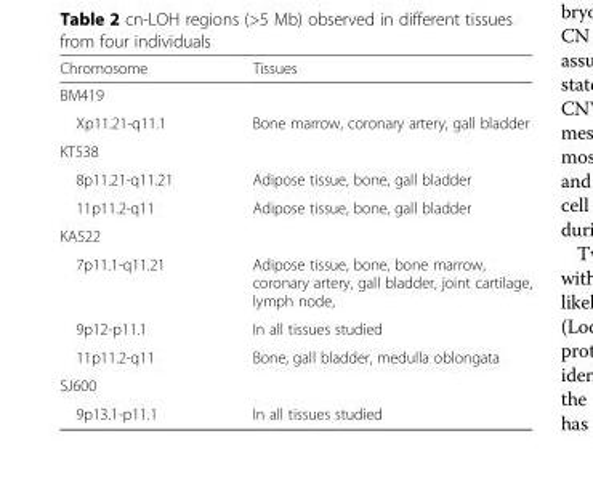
<table><thead><tr><td>Chromosome</td><td>Tissues</td></tr></thead><tbody><tr><td colspan="2">BM419</td></tr><tr><td>Xp11.21-q11.1</td><td>Bone marrow, coronary artery, gall bladder</td></tr><tr><td colspan="2">KT538</td></tr><tr><td>8p11.21-q11.21</td><td>Adipose tissue, bone, gall bladder</td></tr><tr><td>11p11.2-q11</td><td>Adipose tissue, bone, gall bladder</td></tr><tr><td colspan="2">KA522</td></tr><tr><td>7p11.1-q11.21</td><td>Adipose tissue, bone, bone marrow, coronary artery, gall bladder, joint cartilage, lymph node,</td></tr><tr><td>9p12-p11.1</td><td>In all tissues studied</td></tr><tr><td>11p11.2-q11</td><td>Bone, gall bladder, medulla oblongata</td></tr><tr><td colspan="2">SJ600</td></tr><tr><td>9p13.1-p11.1</td><td>In all tissues studied</td></tr></tbody></table>